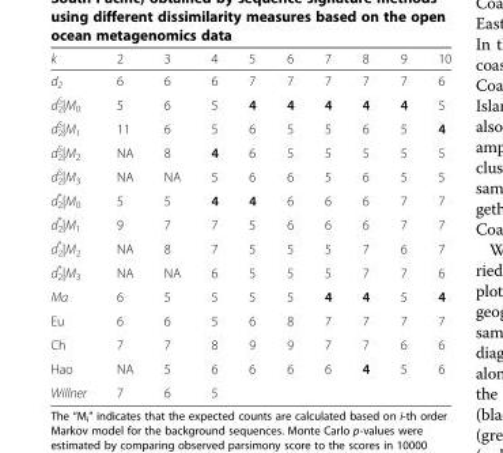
<table><thead><tr><td>k</td><td>2</td><td>3</td><td>4</td><td>5</td><td>6</td><td>7</td><td>8</td><td>9</td><td>10</td></tr></thead><tbody><tr><td>d<sub>2</sub></td><td>6</td><td>6</td><td>6</td><td>7</td><td>7</td><td>7</td><td>7</td><td>7</td><td>6</td></tr><tr><td>d<sub>2</sub> <sup>S</sup>|M<sub>0</sub></td><td>5</td><td>6</td><td>5</td><td>4</td><td>4</td><td>4</td><td>4</td><td>4</td><td>5</td></tr><tr><td>d<sub>2</sub> <sup>S</sup>|M<sub>1</sub></td><td>11</td><td>6</td><td>5</td><td>6</td><td>5</td><td>5</td><td>6</td><td>5</td><td>4</td></tr><tr><td>d<sub>2</sub> <sup>S</sup>|M<sub>2</sub></td><td>NA</td><td>8</td><td>4</td><td>6</td><td>5</td><td>5</td><td>5</td><td>5</td><td>5</td></tr><tr><td>d<sub>2</sub> <sup>S</sup>|M<sub>3</sub></td><td>NA</td><td>NA</td><td>5</td><td>6</td><td>6</td><td>5</td><td>6</td><td>5</td><td>5</td></tr><tr><td>d<sub>2</sub> *|M<sub>0</sub></td><td>5</td><td>5</td><td>4</td><td>4</td><td>6</td><td>6</td><td>6</td><td>7</td><td>7</td></tr><tr><td>d<sub>2</sub> *|M<sub>1</sub></td><td>9</td><td>7</td><td>7</td><td>5</td><td>6</td><td>6</td><td>6</td><td>7</td><td>7</td></tr><tr><td>d<sub>2</sub> *|M<sub>2</sub></td><td>NA</td><td>8</td><td>7</td><td>5</td><td>5</td><td>5</td><td>7</td><td>6</td><td>7</td></tr><tr><td>d<sub>2</sub> *|M<sub>3</sub></td><td>NA</td><td>NA</td><td>6</td><td>5</td><td>5</td><td>5</td><td>7</td><td>7</td><td>6</td></tr><tr><td>Ma</td><td>6</td><td>5</td><td>5</td><td>5</td><td>5</td><td>4</td><td>4</td><td>5</td><td>4</td></tr><tr><td>Eu</td><td>6</td><td>6</td><td>5</td><td>6</td><td>8</td><td>7</td><td>7</td><td>7</td><td>7</td></tr><tr><td>Ch</td><td>7</td><td>7</td><td>8</td><td>9</td><td>9</td><td>7</td><td>7</td><td>6</td><td>6</td></tr><tr><td>Hao</td><td>NA</td><td>5</td><td>6</td><td>6</td><td>6</td><td>6</td><td>4</td><td>5</td><td>6</td></tr><tr><td>Willner</td><td>7</td><td>6</td><td>5</td><td></td><td></td><td></td><td></td><td></td><td></td></tr></tbody></table>